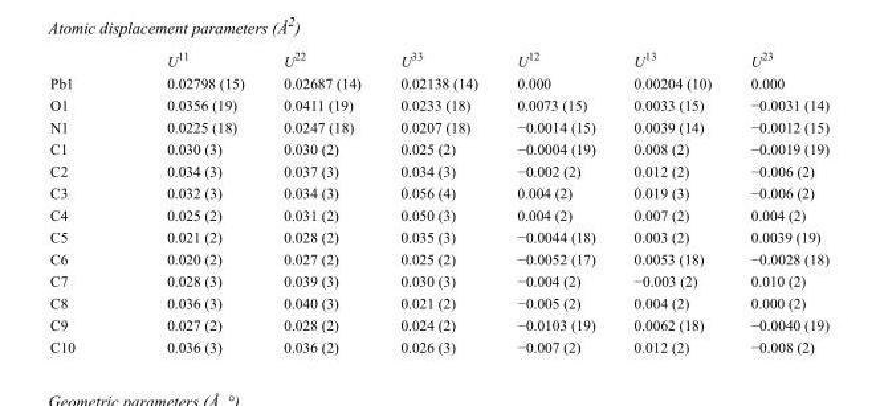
<table><thead><tr><td></td><td>U<sup>11</sup></td><td>U<sup>22</sup></td><td>U<sup>33</sup></td><td>U<sup>12</sup></td><td>U<sup>13</sup></td><td>U<sup>23</sup></td></tr></thead><tbody><tr><td>Pb1</td><td>0.02798 (15)</td><td>0.02687 (14)</td><td>0.02138 (14)</td><td>0.000</td><td>0.00204 (10)</td><td>0.000</td></tr><tr><td>O1</td><td>0.0356 (19)</td><td>0.0411 (19)</td><td>0.0233 (18)</td><td>0.0073 (15)</td><td>0.0033 (15)</td><td>−0.0031 (14)</td></tr><tr><td>N1</td><td>0.0225 (18)</td><td>0.0247 (18)</td><td>0.0207 (18)</td><td>−0.0014 (15)</td><td>0.0039 (14)</td><td>−0.0012 (15)</td></tr><tr><td>C1</td><td>0.030 (3)</td><td>0.030 (2)</td><td>0.025 (2)</td><td>−0.0004 (19)</td><td>0.008 (2)</td><td>−0.0019 (19)</td></tr><tr><td>C2</td><td>0.034 (3)</td><td>0.037 (3)</td><td>0.034 (3)</td><td>−0.002 (2)</td><td>0.012 (2)</td><td>−0.006 (2)</td></tr><tr><td>C3</td><td>0.032 (3)</td><td>0.034 (3)</td><td>0.056 (4)</td><td>0.004 (2)</td><td>0.019 (3)</td><td>−0.006 (2)</td></tr><tr><td>C4</td><td>0.025 (2)</td><td>0.031 (2)</td><td>0.050 (3)</td><td>0.004 (2)</td><td>0.007 (2)</td><td>0.004 (2)</td></tr><tr><td>C5</td><td>0.021 (2)</td><td>0.028 (2)</td><td>0.035 (3)</td><td>−0.0044 (18)</td><td>0.003 (2)</td><td>0.0039 (19)</td></tr><tr><td>C6</td><td>0.020 (2)</td><td>0.027 (2)</td><td>0.025 (2)</td><td>−0.0052 (17)</td><td>0.0053 (18)</td><td>−0.0028 (18)</td></tr><tr><td>C7</td><td>0.028 (3)</td><td>0.039 (3)</td><td>0.030 (3)</td><td>−0.004 (2)</td><td>−0.003 (2)</td><td>0.010 (2)</td></tr><tr><td>C8</td><td>0.036 (3)</td><td>0.040 (3)</td><td>0.021 (2)</td><td>−0.005 (2)</td><td>0.004 (2)</td><td>0.000 (2)</td></tr><tr><td>C9</td><td>0.027 (2)</td><td>0.028 (2)</td><td>0.024 (2)</td><td>−0.0103 (19)</td><td>0.0062 (18)</td><td>−0.0040 (19)</td></tr><tr><td>C10</td><td>0.036 (3)</td><td>0.036 (2)</td><td>0.026 (3)</td><td>−0.007 (2)</td><td>0.012 (2)</td><td>−0.008 (2)</td></tr></tbody></table>